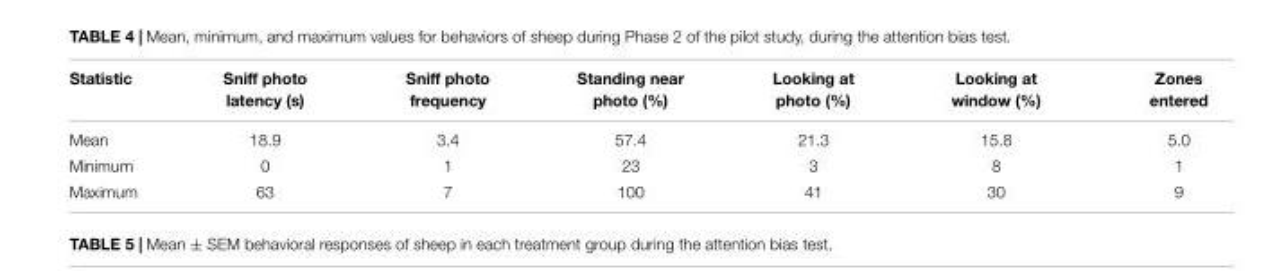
<table><thead><tr><td>Statistic</td><td>Sniff photo latency (s)</td><td>Sniff photo frequency</td><td>Standing near photo (%)</td><td>Looking at photo (%)</td><td>Looking at window (%)</td><td>Zones entered</td></tr></thead><tbody><tr><td>Mean</td><td>18.9</td><td>3.4</td><td>57.4</td><td>21.3</td><td>15.8</td><td>5.0</td></tr><tr><td>Minimum</td><td>0</td><td>1</td><td>23</td><td>3</td><td>8</td><td>1</td></tr><tr><td>Maximum</td><td>63</td><td>7</td><td>100</td><td>41</td><td>30</td><td>9</td></tr></tbody></table>